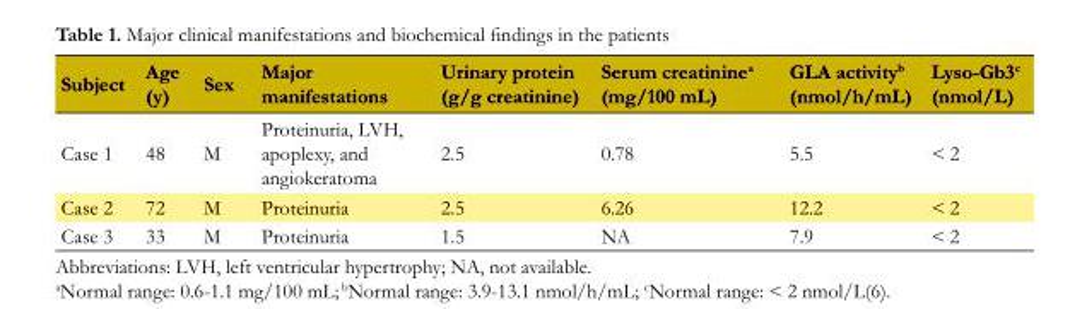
<table><tbody><tr><td>Subject</td><td>Age (y)</td><td>Sex</td><td>Major manifestations</td><td>Urinary protein (g/g creatinine)</td><td>Serum creatinine<sup>a</sup> (mg/100 mL)</td><td>GLA activity<sup>b</sup> (nmol/h/mL)</td><td>Lyso-Gb3<sup>c</sup> (nmol/L)</td></tr><tr><td>Case 1</td><td>48</td><td>M</td><td>Proteinuria, LVH, apoplexy, and angiokeratoma</td><td>2.5</td><td>0.78</td><td>5.5</td><td>&lt; 2</td></tr><tr><td>Case 2</td><td>72</td><td>M</td><td>Proteinuria</td><td>2.5</td><td>6.26</td><td>12.2</td><td>&lt; 2</td></tr><tr><td>Case 3</td><td>33</td><td>M</td><td>Proteinuria</td><td>1.5</td><td>NA</td><td>7.9</td><td>&lt; 2</td></tr></tbody></table>